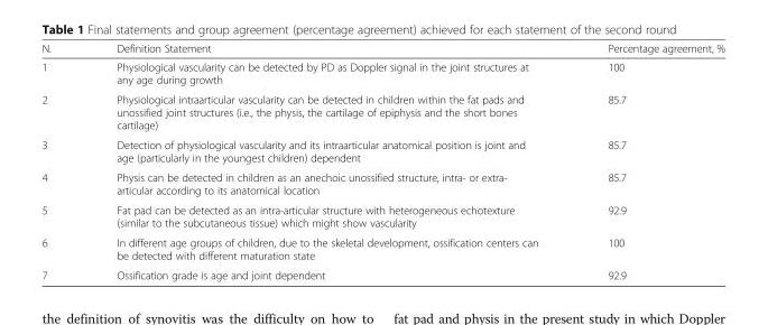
<table><thead><tr><td>N.</td><td>Definition Statement</td><td>Percentage agreement, %</td></tr></thead><tbody><tr><td>1</td><td>Physiological vascularity can be detected by PD as Doppler signal in the joint structures at any age during growth</td><td>100</td></tr><tr><td>2</td><td>Physiological intraarticular vascularity can be detected in children within the fat pads and unossified joint structures (i.e., the physis, the cartilage of epiphysis and the short bones cartilage)</td><td>85.7</td></tr><tr><td>3</td><td>Detection of physiological vascularity and its intraarticular anatomical position is joint and age (particularly in the youngest children) dependent</td><td>85.7</td></tr><tr><td>4</td><td>Physis can be detected in children as an anechoic unossified structure, intra- or extra- articular according to its anatomical location</td><td>85.7</td></tr><tr><td>5</td><td>Fat pad can be detected as an intra-articular structure with heterogeneous echotexture (similar to the subcutaneous tissue) which might show vascularity</td><td>92.9</td></tr><tr><td>6</td><td>In different age groups of children, due to the skeletal development, ossification centers can be detected with different maturation state</td><td>100</td></tr><tr><td>7</td><td>Ossification grade is age and joint dependent</td><td>92.9</td></tr></tbody></table>